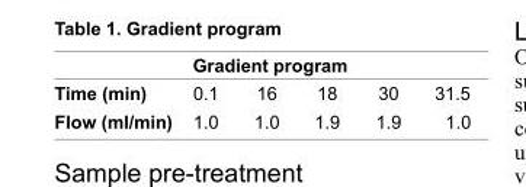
<table><thead><tr><td rowspan="2">Time (min)</td><td colspan="5">Gradient program</td></tr><tr><td>0.1</td><td>16</td><td>18</td><td>30</td><td>31.5</td></tr></thead><tbody><tr><td>Flow (ml/min)</td><td>1.0</td><td>1.0</td><td>1.9</td><td>1.9</td><td>1.0</td></tr></tbody></table>